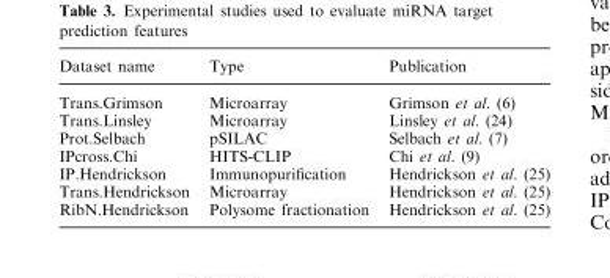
<table><thead><tr><td>Dataset name</td><td>Type</td><td>Publication</td></tr></thead><tbody><tr><td>Trans.Grimson</td><td>Microarray</td><td>Grimson et al. (6)</td></tr><tr><td>Trans.Linsley</td><td>Microarray</td><td>Linsley et al. (24)</td></tr><tr><td>Prot.Selbach</td><td>pSILAC</td><td>Selbach et al. (7)</td></tr><tr><td>IPcross.Chi</td><td>HITS-CLIP</td><td>Chi et al. (9)</td></tr><tr><td>IP.Hendrickson</td><td>Immunopurification</td><td>Hendrickson et al. (25)</td></tr><tr><td>Trans.Hendrickson</td><td>Microarray</td><td>Hendrickson et al. (25)</td></tr><tr><td>RibN.Hendrickson</td><td>Polysome fractionation</td><td>Hendrickson et al. (25)</td></tr></tbody></table>